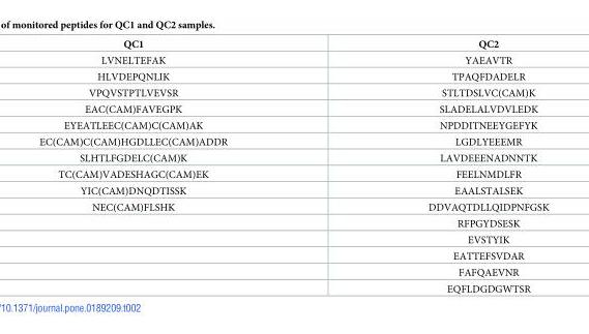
<table><thead><tr><td>QC1</td><td>QC2</td></tr></thead><tbody><tr><td>LVNELTEFAK</td><td>YAEAVTR</td></tr><tr><td>HLVDEPQNLIK</td><td>TPAQFDADELR</td></tr><tr><td>VPQVSTPTLVEVSR</td><td>STLTDSLVC(CAM)K</td></tr><tr><td>EAC(CAM)FAVEGPK</td><td>SLADELALVDVLEDK</td></tr><tr><td>EYEATLEEC(CAM)C(CAM)AK</td><td>NPDDITNEEYGEFYK</td></tr><tr><td>EC(CAM)C(CAM)HGDLLEC(CAM)ADDR</td><td>LGDLYEEEMR</td></tr><tr><td>SLHTLFGDELC(CAM)K</td><td>LAVDEEENADNNTK</td></tr><tr><td>TC(CAM)VADESHAGC(CAM)EK</td><td>FEELNMDLFR</td></tr><tr><td>YIC(CAM)DNQDTISSK</td><td>EAALSTALSEK</td></tr><tr><td rowspan="6">NEC(CAM)FLSHK</td><td>DDVAQTDLLQIDPNFGSK</td></tr><tr><td>RFPGYDSESK</td></tr><tr><td>EVSTYIK</td></tr><tr><td>EATTEFSVDAR</td></tr><tr><td>FAFQAEVNR</td></tr><tr><td>EQFLDGDGWTSR</td></tr></tbody></table>